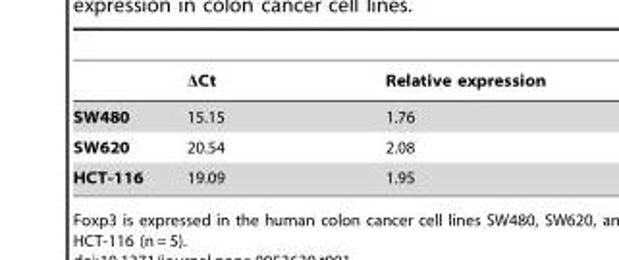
<table><thead><tr><td></td><td>ΔCt</td><td>Relative expression</td></tr></thead><tbody><tr><td>SW480</td><td>15.15</td><td>1.76</td></tr><tr><td>SW620</td><td>20.54</td><td>2.08</td></tr><tr><td>HCT-116</td><td>19.09</td><td>1.95</td></tr></tbody></table>